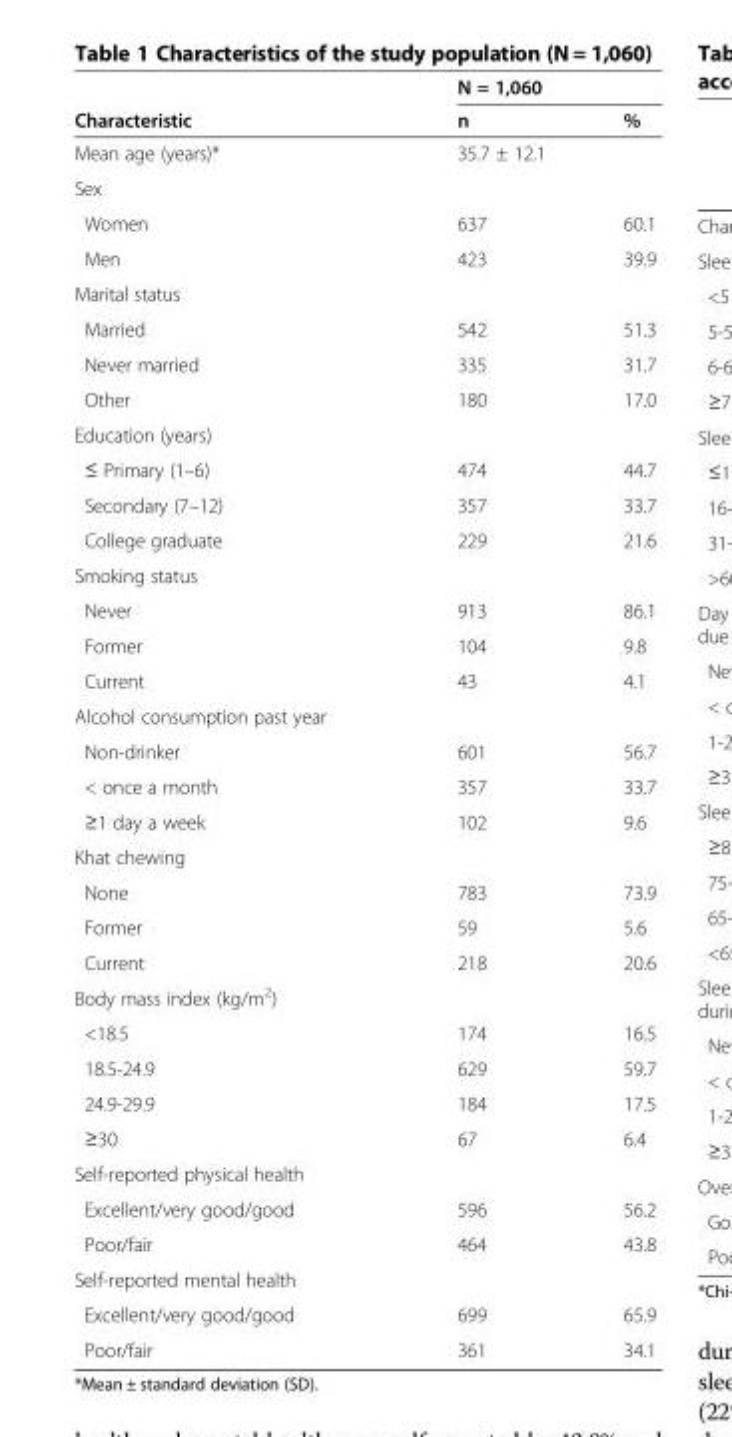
<table><thead><tr><td rowspan="2">Characteristic</td><td colspan="2">N = 1,060</td></tr><tr><td>n</td><td>%</td></tr></thead><tbody><tr><td>Mean age (years)*</td><td colspan="2">35.7 ± 12.1</td></tr><tr><td colspan="3">Sex</td></tr><tr><td>Women</td><td>637</td><td>60.1</td></tr><tr><td>Men</td><td>423</td><td>39.9</td></tr><tr><td colspan="3">Marital status</td></tr><tr><td>Married</td><td>542</td><td>51.3</td></tr><tr><td>Never married</td><td>335</td><td>31.7</td></tr><tr><td>Other</td><td>180</td><td>17.0</td></tr><tr><td colspan="3">Education (years)</td></tr><tr><td>≤ Primary (1–6)</td><td>474</td><td>44.7</td></tr><tr><td>Secondary (7–12)</td><td>357</td><td>33.7</td></tr><tr><td>College graduate</td><td>229</td><td>21.6</td></tr><tr><td colspan="3">Smoking status</td></tr><tr><td>Never</td><td>913</td><td>86.1</td></tr><tr><td>Former</td><td>104</td><td>9.8</td></tr><tr><td>Current</td><td>43</td><td>4.1</td></tr><tr><td colspan="3">Alcohol consumption past year</td></tr><tr><td>Non-drinker</td><td>601</td><td>56.7</td></tr><tr><td>&lt; once a month</td><td>357</td><td>33.7</td></tr><tr><td>≥1 day a week</td><td>102</td><td>9.6</td></tr><tr><td colspan="3">Khat chewing</td></tr><tr><td>None</td><td>783</td><td>73.9</td></tr><tr><td>Former</td><td>59</td><td>5.6</td></tr><tr><td>Current</td><td>218</td><td>20.6</td></tr><tr><td colspan="3">Body mass index (kg/m<sup>2</sup>)</td></tr><tr><td>&lt;18.5</td><td>174</td><td>16.5</td></tr><tr><td>18.5-24.9</td><td>629</td><td>59.7</td></tr><tr><td>24.9-29.9</td><td>184</td><td>17.5</td></tr><tr><td>≥30</td><td>67</td><td>6.4</td></tr><tr><td colspan="3">Self-reported physical health</td></tr><tr><td>Excellent/very good/good</td><td>596</td><td>56.2</td></tr><tr><td>Poor/fair</td><td>464</td><td>43.8</td></tr><tr><td colspan="3">Self-reported mental health</td></tr><tr><td>Excellent/very good/good</td><td>699</td><td>65.9</td></tr><tr><td>Poor/fair</td><td>361</td><td>34.1</td></tr></tbody></table>